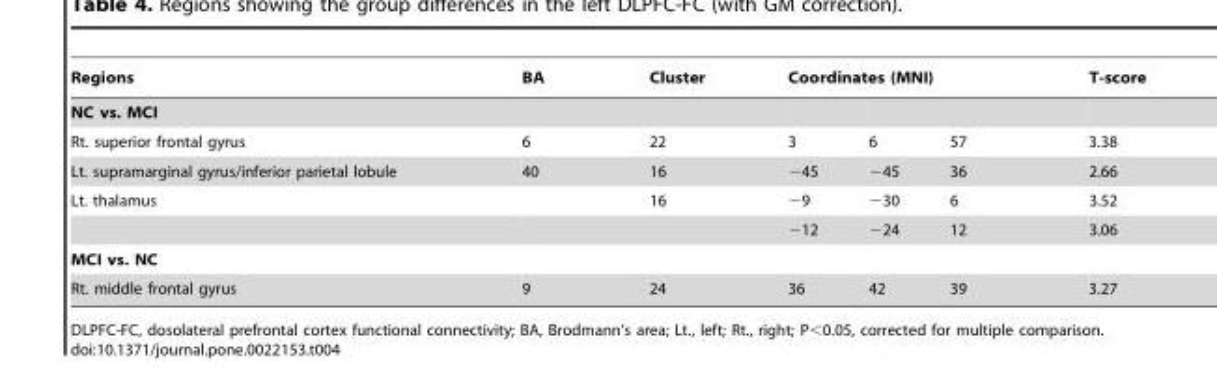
<table><thead><tr><td>Regions</td><td>BA</td><td>Cluster</td><td colspan="3">Coordinates (MNI)</td><td rowspan="2">T-score</td></tr><tr><td colspan="3">NC vs. MCI</td><td></td><td></td><td></td></tr></thead><tbody><tr><td>Rt. superior frontal gyrus</td><td>6</td><td>22</td><td>3</td><td>6</td><td>57</td><td>3.38</td></tr><tr><td>Lt. supramarginal gyrus/inferior parietal lobule</td><td>40</td><td>16</td><td>−45</td><td>−45</td><td>36</td><td>2.66</td></tr><tr><td rowspan="2">Lt. thalamus</td><td></td><td>16</td><td>−9</td><td>−30</td><td>6</td><td>3.52</td></tr><tr><td></td><td></td><td>−12</td><td>−24</td><td>12</td><td>3.06</td></tr><tr><td colspan="7">MCI vs. NC</td></tr><tr><td>Rt. middle frontal gyrus</td><td>9</td><td>24</td><td>36</td><td>42</td><td>39</td><td>3.27</td></tr></tbody></table>